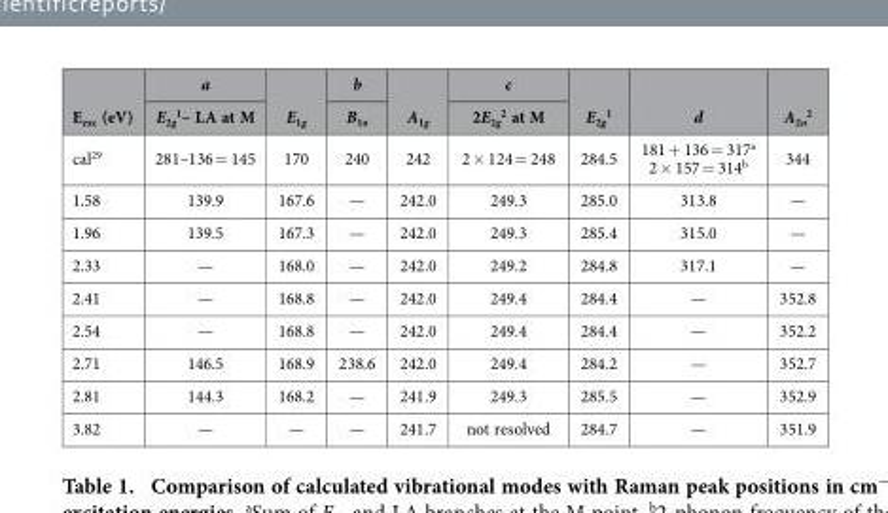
<table><thead><tr><td rowspan="2">E<sub>exc</sub> (eV)</td><td rowspan="2">a E<sub>2g</sub> <sup>1</sup>– LA at M</td><td rowspan="2">E<sub>1g</sub></td><td rowspan="2">b B<sub>1u</sub></td><td rowspan="2">A<sub>1g</sub></td><td rowspan="2">c 2E<sub>2g</sub> <sup>2</sup> at M</td><td rowspan="2">E<sub>2g</sub> <sup>1</sup></td><td rowspan="2">d</td><td rowspan="2">A2u 2</td></tr><tr></tr></thead><tbody><tr><td>cal<sup>29</sup></td><td>281–136 = 145</td><td>170</td><td>240</td><td>242</td><td>2 × 124 = 248</td><td>284.5</td><td>181 + 136 = 317<sup>a</sup> 2 × 157 = 314<sup>b</sup></td><td>344</td></tr><tr><td>1.58</td><td>139.9</td><td>167.6</td><td>—</td><td>242.0</td><td>249.3</td><td>285.0</td><td>313.8</td><td>—</td></tr><tr><td>1.96</td><td>139.5</td><td>167.3</td><td>—</td><td>242.0</td><td>249.3</td><td>285.4</td><td>315.0</td><td>—</td></tr><tr><td>2.33</td><td>—</td><td>168.0</td><td>—</td><td>242.0</td><td>249.2</td><td>284.8</td><td>317.1</td><td>—</td></tr><tr><td>2.41</td><td>—</td><td>168.8</td><td>—</td><td>242.0</td><td>249.4</td><td>284.4</td><td>—</td><td>352.8</td></tr><tr><td>2.54</td><td>—</td><td>168.8</td><td>—</td><td>242.0</td><td>249.4</td><td>284.4</td><td>—</td><td>352.2</td></tr><tr><td>2.71</td><td>146.5</td><td>168.9</td><td>238.6</td><td>242.0</td><td>249.4</td><td>284.2</td><td>—</td><td>352.7</td></tr><tr><td>2.81</td><td>144.3</td><td>168.2</td><td>—</td><td>241.9</td><td>249.3</td><td>285.5</td><td>—</td><td>352.9</td></tr><tr><td>3.82</td><td>—</td><td>—</td><td>—</td><td>241.7</td><td>not resolved</td><td>284.7</td><td>—</td><td>351.9</td></tr></tbody></table>